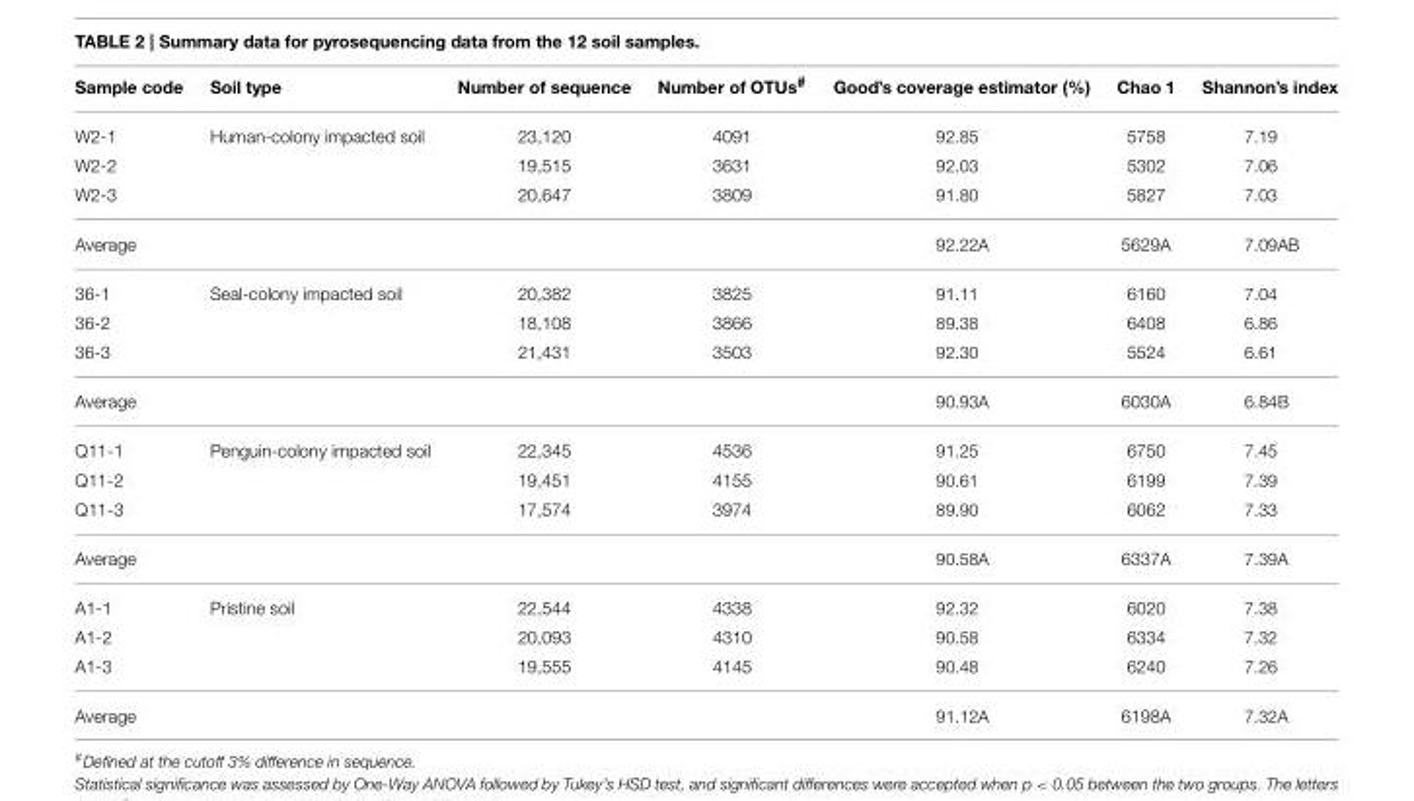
<table><thead><tr><td>Sample code</td><td>Soil type</td><td>Number of sequence</td><td>Number of OTUs<sup>#</sup></td><td>Good’s coverage estimator (%)</td><td>Chao 1</td><td>Shannon’s index</td></tr></thead><tbody><tr><td>W2-1</td><td>Human-colony impacted soil</td><td>23,120</td><td>4091</td><td>92.85</td><td>5758</td><td>7.19</td></tr><tr><td>W2-2</td><td></td><td>19,515</td><td>3631</td><td>92.03</td><td>5302</td><td>7.06</td></tr><tr><td>W2-3</td><td></td><td>20,647</td><td>3809</td><td>91.80</td><td>5827</td><td>7.03</td></tr><tr><td>Average</td><td></td><td></td><td></td><td>92.22A</td><td>5629A</td><td>7.09AB</td></tr><tr><td>36-1</td><td>Seal-colony impacted soil</td><td>20,382</td><td>3825</td><td>91.11</td><td>6160</td><td>7.04</td></tr><tr><td>36-2</td><td></td><td>18,108</td><td>3866</td><td>89.38</td><td>6408</td><td>6.86</td></tr><tr><td>36-3</td><td></td><td>21,431</td><td>3503</td><td>92.30</td><td>5524</td><td>6.61</td></tr><tr><td>Average</td><td></td><td></td><td></td><td>90.93A</td><td>6030A</td><td>6.84B</td></tr><tr><td>Q11-1</td><td>Penguin-colony impacted soil</td><td>22,345</td><td>4536</td><td>91.25</td><td>6750</td><td>7.45</td></tr><tr><td>Q11-2</td><td></td><td>19,451</td><td>4155</td><td>90.61</td><td>6199</td><td>7.39</td></tr><tr><td>Q11-3</td><td></td><td>17,574</td><td>3974</td><td>89.90</td><td>6062</td><td>7.33</td></tr><tr><td>Average</td><td></td><td></td><td></td><td>90.58A</td><td>6337A</td><td>7.39A</td></tr><tr><td>A1-1</td><td>Pristine soil</td><td>22,544</td><td>4338</td><td>92.32</td><td>6020</td><td>7.38</td></tr><tr><td>A1-2</td><td></td><td>20,093</td><td>4310</td><td>90.58</td><td>6334</td><td>7.32</td></tr><tr><td>A1-3</td><td></td><td>19,555</td><td>4145</td><td>90.48</td><td>6240</td><td>7.26</td></tr><tr><td>Average</td><td></td><td></td><td></td><td>91.12A</td><td>6198A</td><td>7.32A</td></tr></tbody></table>